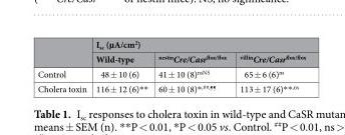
<table><thead><tr><td rowspan="2"></td><td colspan="3">I<sub>sc</sub> (µA/cm<sup>2</sup>)</td></tr><tr><td>Wild-type</td><td><sup>nestin</sup>Cre/Casr<sup>flox/flox</sup></td><td><sup>villin</sup>Cre/Casr<sup>flox/flox</sup></td></tr></thead><tbody><tr><td>Control</td><td>48 ± 10 (6)</td><td>41 ± 10 (8)<sup>nsNS</sup></td><td>65 ± 6 (6)<sup>ns</sup></td></tr><tr><td>Cholera toxin</td><td>116 ± 12 (6)**</td><td>60 ± 10 (8)*<sup>,##,¶¶</sup></td><td>113 ± 17 (6)**<sup>,ns</sup></td></tr></tbody></table>